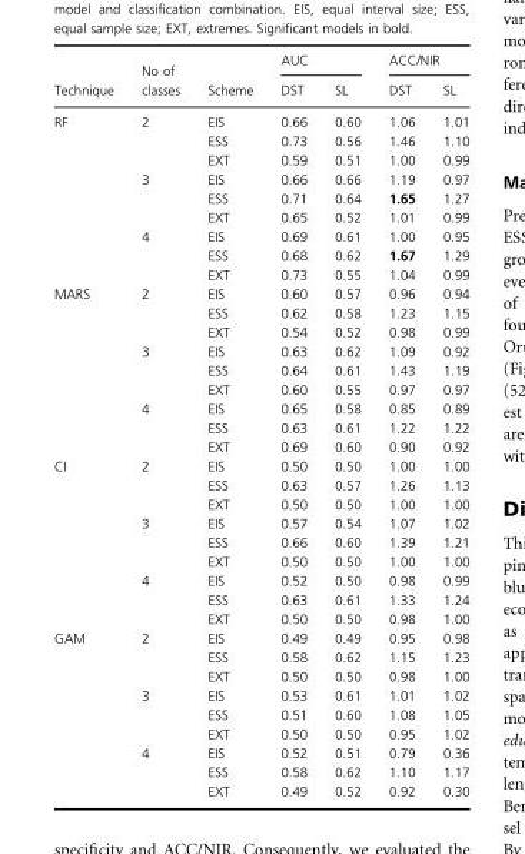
<table><thead><tr><td rowspan="2">Technique</td><td rowspan="2">No of classes</td><td rowspan="2">Scheme</td><td colspan="2">AUC</td><td colspan="2">ACC/NIR</td></tr><tr><td>DST</td><td>SL</td><td>DST</td><td>SL</td></tr></thead><tbody><tr><td rowspan="9">RF</td><td rowspan="3">2</td><td>EIS</td><td>0.66</td><td>0.60</td><td>1.06</td><td>1.01</td></tr><tr><td>ESS</td><td>0.73</td><td>0.56</td><td>1.46</td><td>1.10</td></tr><tr><td>EXT</td><td>0.59</td><td>0.51</td><td>1.00</td><td>0.99</td></tr><tr><td rowspan="3">3</td><td>EIS</td><td>0.66</td><td>0.66</td><td>1.19</td><td>0.97</td></tr><tr><td>ESS</td><td>0.71</td><td>0.64</td><td>1.65</td><td>1.27</td></tr><tr><td>EXT</td><td>0.65</td><td>0.52</td><td>1.01</td><td>0.99</td></tr><tr><td rowspan="3">4</td><td>EIS</td><td>0.69</td><td>0.61</td><td>1.00</td><td>0.95</td></tr><tr><td>ESS</td><td>0.68</td><td>0.62</td><td>1.67</td><td>1.29</td></tr><tr><td>EXT</td><td>0.73</td><td>0.55</td><td>1.04</td><td>0.99</td></tr><tr><td rowspan="9">MARS</td><td rowspan="3">2</td><td>EIS</td><td>0.60</td><td>0.57</td><td>0.96</td><td>0.94</td></tr><tr><td>ESS</td><td>0.62</td><td>0.58</td><td>1.23</td><td>1.15</td></tr><tr><td>EXT</td><td>0.54</td><td>0.52</td><td>0.98</td><td>0.99</td></tr><tr><td rowspan="3">3</td><td>EIS</td><td>0.63</td><td>0.62</td><td>1.09</td><td>0.92</td></tr><tr><td>ESS</td><td>0.64</td><td>0.61</td><td>1.43</td><td>1.19</td></tr><tr><td>EXT</td><td>0.60</td><td>0.55</td><td>0.97</td><td>0.97</td></tr><tr><td rowspan="3">4</td><td>EIS</td><td>0.65</td><td>0.58</td><td>0.85</td><td>0.89</td></tr><tr><td>ESS</td><td>0.63</td><td>0.61</td><td>1.22</td><td>1.22</td></tr><tr><td>EXT</td><td>0.69</td><td>0.60</td><td>0.90</td><td>0.92</td></tr><tr><td rowspan="9">CI</td><td rowspan="3">2</td><td>EIS</td><td>0.50</td><td>0.50</td><td>1.00</td><td>1.00</td></tr><tr><td>ESS</td><td>0.63</td><td>0.57</td><td>1.26</td><td>1.13</td></tr><tr><td>EXT</td><td>0.50</td><td>0.50</td><td>1.00</td><td>1.00</td></tr><tr><td rowspan="3">3</td><td>EIS</td><td>0.57</td><td>0.54</td><td>1.07</td><td>1.02</td></tr><tr><td>ESS</td><td>0.66</td><td>0.60</td><td>1.39</td><td>1.21</td></tr><tr><td>EXT</td><td>0.50</td><td>0.50</td><td>1.00</td><td>1.00</td></tr><tr><td rowspan="3">4</td><td>EIS</td><td>0.52</td><td>0.50</td><td>0.98</td><td>0.99</td></tr><tr><td>ESS</td><td>0.63</td><td>0.61</td><td>1.33</td><td>1.24</td></tr><tr><td>EXT</td><td>0.50</td><td>0.50</td><td>0.98</td><td>1.00</td></tr><tr><td rowspan="9">GAM</td><td rowspan="3">2</td><td>EIS</td><td>0.49</td><td>0.49</td><td>0.95</td><td>0.98</td></tr><tr><td>ESS</td><td>0.58</td><td>0.62</td><td>1.15</td><td>1.23</td></tr><tr><td>EXT</td><td>0.50</td><td>0.50</td><td>0.98</td><td>1.00</td></tr><tr><td rowspan="3">3</td><td>EIS</td><td>0.53</td><td>0.61</td><td>1.01</td><td>1.02</td></tr><tr><td>ESS</td><td>0.51</td><td>0.60</td><td>1.08</td><td>1.05</td></tr><tr><td>EXT</td><td>0.50</td><td>0.50</td><td>0.95</td><td>1.02</td></tr><tr><td rowspan="3">4</td><td>EIS</td><td>0.52</td><td>0.51</td><td>0.79</td><td>0.36</td></tr><tr><td>ESS</td><td>0.58</td><td>0.62</td><td>1.10</td><td>1.17</td></tr><tr><td>EXT</td><td>0.49</td><td>0.52</td><td>0.92</td><td>0.30</td></tr></tbody></table>